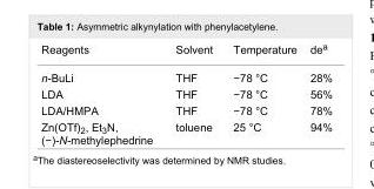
<table><tbody><tr><td>Reagents</td><td>Solvent</td><td>Temperature</td><td>de<sup>a</sup></td></tr><tr><td>n-BuLi</td><td>THF</td><td>−78 °C</td><td>28%</td></tr><tr><td>LDA</td><td>THF</td><td>−78 °C</td><td>56%</td></tr><tr><td>LDA/HMPA</td><td>THF</td><td>−78 °C</td><td>78%</td></tr><tr><td>Zn(OTf)<sub>2</sub>, Et<sub>3</sub>N, (−)-N-methylephedrine</td><td>toluene</td><td>25 °C</td><td>94%</td></tr></tbody></table>